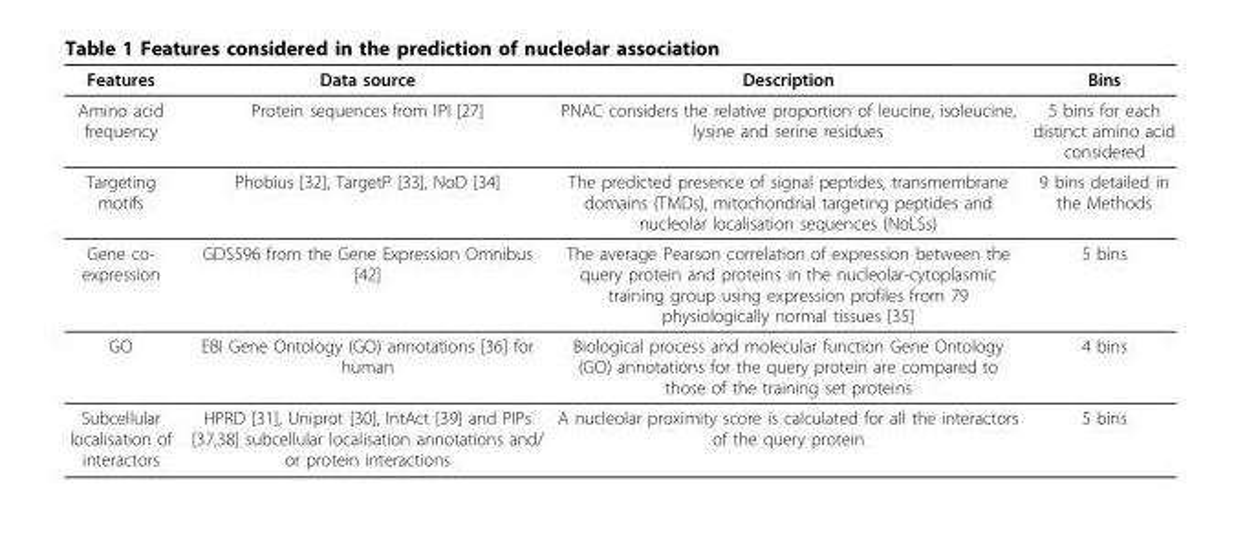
<table><thead><tr><td>Features</td><td>Data source</td><td>Description</td><td>Bins</td></tr></thead><tbody><tr><td>Amino acid frequency</td><td>Protein sequences from IPI [27]</td><td>PNAC considers the relative proportion of leucine, isoleucine, lysine and serine residues</td><td>5 bins for each distinct amino acid considered</td></tr><tr><td>Targeting motifs</td><td>Phobius [32], TargetP [33], NoD [34]</td><td>The predicted presence of signal peptides, transmembrane domains (TMDs), mitochondrial targeting peptides and nucleolar localisation sequences (NoLSs)</td><td>9 bins detailed in the Methods</td></tr><tr><td>Gene co- expression</td><td>GDS596 from the Gene Expression Omnibus [42]</td><td>The average Pearson correlation of expression between the query protein and proteins in the nucleolar-cytoplasmic training group using expression profiles from 79 physiologically normal tissues [35]</td><td>5 bins</td></tr><tr><td>GO</td><td>EBI Gene Ontology (GO) annotations [36] for human</td><td>Biological process and molecular function Gene Ontology (GO) annotations for the query protein are compared to those of the training set proteins</td><td>4 bins</td></tr><tr><td>Subcellular localisation of interactors</td><td>HPRD [31], Uniprot [30], IntAct [39] and PIPs [37,38] subcellular localisation annotations and/ or protein interactions</td><td>A nucleolar proximity score is calculated for all the interactors of the query protein</td><td>5 bins</td></tr></tbody></table>